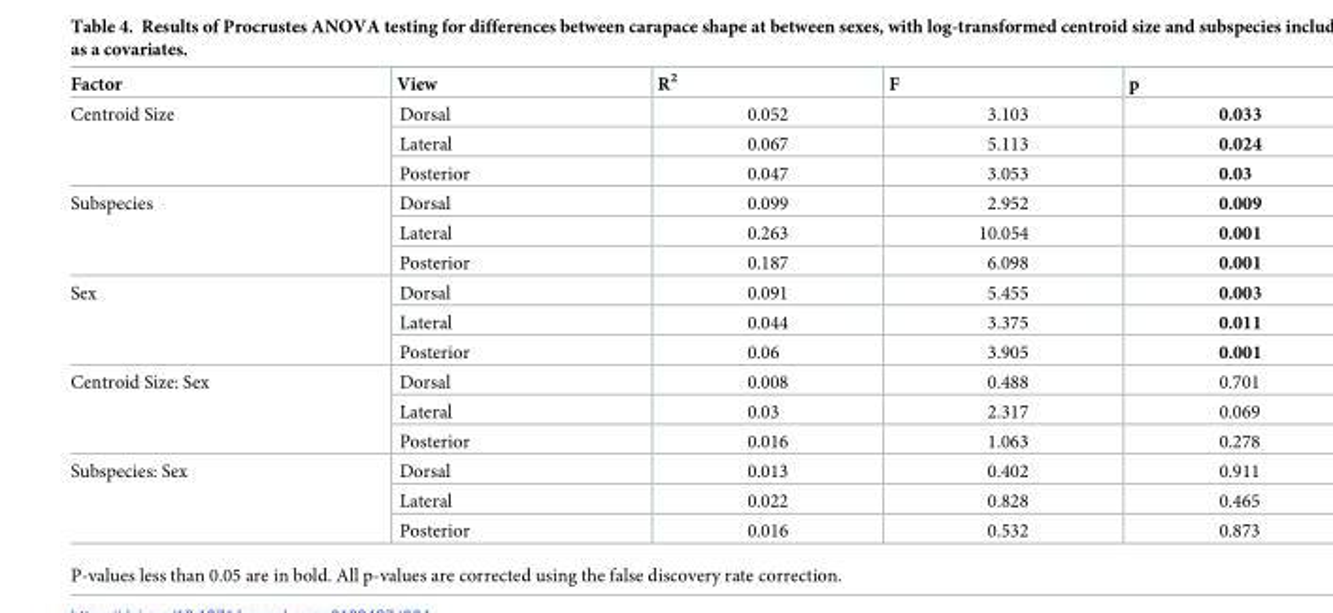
<table><thead><tr><td>Factor</td><td>View</td><td>R<sup>2</sup></td><td>F</td><td>p</td></tr></thead><tbody><tr><td rowspan="3">Centroid Size</td><td>Dorsal</td><td>0.052</td><td>3.103</td><td>0.033</td></tr><tr><td>Lateral</td><td>0.067</td><td>5.113</td><td>0.024</td></tr><tr><td>Posterior</td><td>0.047</td><td>3.053</td><td>0.03</td></tr><tr><td rowspan="3">Subspecies</td><td>Dorsal</td><td>0.099</td><td>2.952</td><td>0.009</td></tr><tr><td>Lateral</td><td>0.263</td><td>10.054</td><td>0.001</td></tr><tr><td>Posterior</td><td>0.187</td><td>6.098</td><td>0.001</td></tr><tr><td rowspan="3">Sex</td><td>Dorsal</td><td>0.091</td><td>5.455</td><td>0.003</td></tr><tr><td>Lateral</td><td>0.044</td><td>3.375</td><td>0.011</td></tr><tr><td>Posterior</td><td>0.06</td><td>3.905</td><td>0.001</td></tr><tr><td rowspan="3">Centroid Size: Sex</td><td>Dorsal</td><td>0.008</td><td>0.488</td><td>0.701</td></tr><tr><td>Lateral</td><td>0.03</td><td>2.317</td><td>0.069</td></tr><tr><td>Posterior</td><td>0.016</td><td>1.063</td><td>0.278</td></tr><tr><td rowspan="3">Subspecies: Sex</td><td>Dorsal</td><td>0.013</td><td>0.402</td><td>0.911</td></tr><tr><td>Lateral</td><td>0.022</td><td>0.828</td><td>0.465</td></tr><tr><td>Posterior</td><td>0.016</td><td>0.532</td><td>0.873</td></tr></tbody></table>